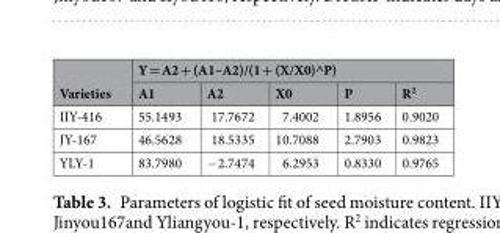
<table><thead><tr><td rowspan="2">Varieties</td><td colspan="5">Y = A2 + (A1–A2)/(1 + (X/X0)^P)</td></tr><tr><td>A1</td><td>A2</td><td>X0</td><td>P</td><td>R<sup>2</sup></td></tr></thead><tbody><tr><td>IIY-416</td><td>55.1493</td><td>17.7672</td><td>7.4002</td><td>1.8956</td><td>0.9020</td></tr><tr><td>JY-167</td><td>46.5628</td><td>18.5335</td><td>10.7088</td><td>2.7903</td><td>0.9823</td></tr><tr><td>YLY-1</td><td>83.7980</td><td>−2.7474</td><td>6.2953</td><td>0.8330</td><td>0.9765</td></tr></tbody></table>